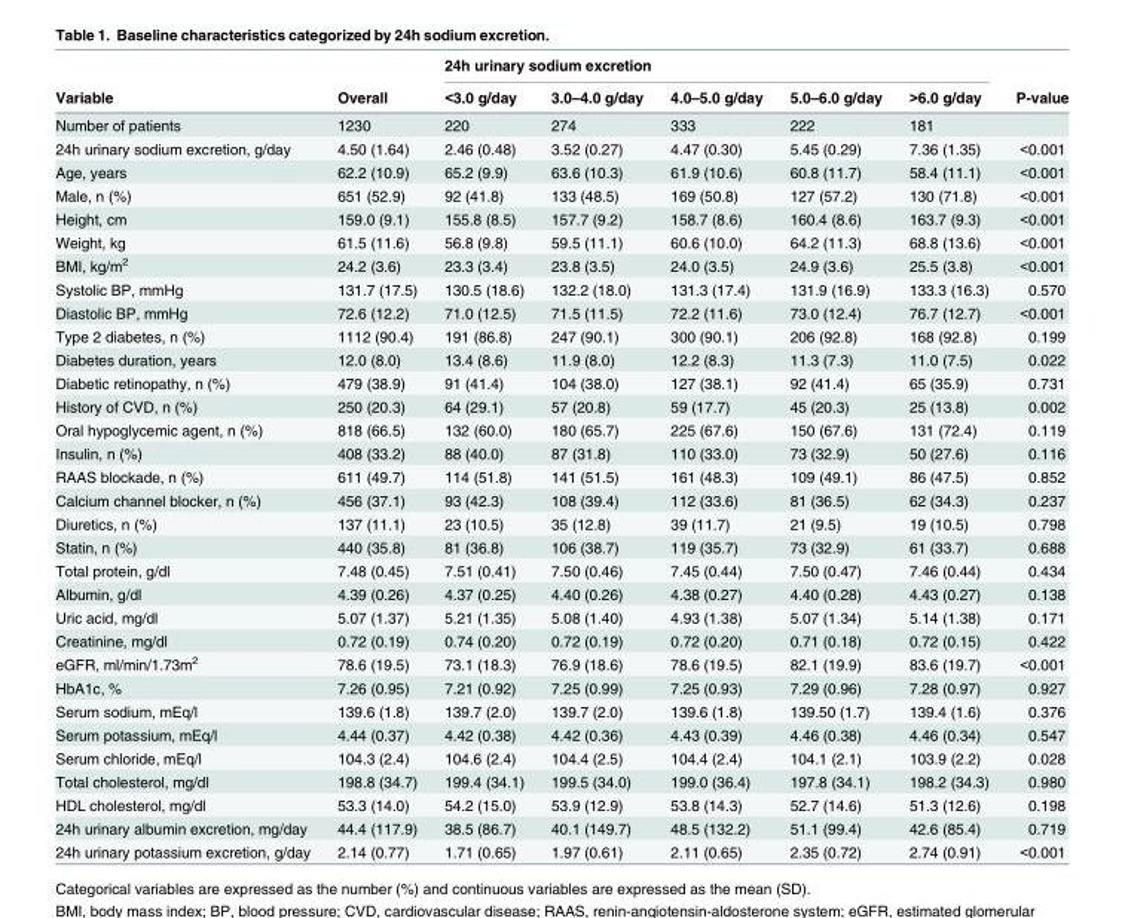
<table><thead><tr><td rowspan="2">Variable</td><td rowspan="2">Overall</td><td colspan="5">24h urinary sodium excretion</td><td rowspan="2">P-value</td></tr><tr><td>&lt;3.0 g/day</td><td>3.0–4.0 g/day</td><td>4.0–5.0 g/day</td><td>5.0–6.0 g/day</td><td>&gt;6.0 g/day</td></tr></thead><tbody><tr><td>Number of patients</td><td>1230</td><td>220</td><td>274</td><td>333</td><td>222</td><td>181</td><td></td></tr><tr><td>24h urinary sodium excretion, g/day</td><td>4.50 (1.64)</td><td>2.46 (0.48)</td><td>3.52 (0.27)</td><td>4.47 (0.30)</td><td>5.45 (0.29)</td><td>7.36 (1.35)</td><td>&lt;0.001</td></tr><tr><td>Age, years</td><td>62.2 (10.9)</td><td>65.2 (9.9)</td><td>63.6 (10.3)</td><td>61.9 (10.6)</td><td>60.8 (11.7)</td><td>58.4 (11.1)</td><td>&lt;0.001</td></tr><tr><td>Male, n (%)</td><td>651 (52.9)</td><td>92 (41.8)</td><td>133 (48.5)</td><td>169 (50.8)</td><td>127 (57.2)</td><td>130 (71.8)</td><td>&lt;0.001</td></tr><tr><td>Height, cm</td><td>159.0 (9.1)</td><td>155.8 (8.5)</td><td>157.7 (9.2)</td><td>158.7 (8.6)</td><td>160.4 (8.6)</td><td>163.7 (9.3)</td><td>&lt;0.001</td></tr><tr><td>Weight, kg</td><td>61.5 (11.6)</td><td>56.8 (9.8)</td><td>59.5 (11.1)</td><td>60.6 (10.0)</td><td>64.2 (11.3)</td><td>68.8 (13.6)</td><td>&lt;0.001</td></tr><tr><td>BMI, kg/m<sup>2</sup></td><td>24.2 (3.6)</td><td>23.3 (3.4)</td><td>23.8 (3.5)</td><td>24.0 (3.5)</td><td>24.9 (3.6)</td><td>25.5 (3.8)</td><td>&lt;0.001</td></tr><tr><td>Systolic BP, mmHg</td><td>131.7 (17.5)</td><td>130.5 (18.6)</td><td>132.2 (18.0)</td><td>131.3 (17.4)</td><td>131.9 (16.9)</td><td>133.3 (16.3)</td><td>0.570</td></tr><tr><td>Diastolic BP, mmHg</td><td>72.6 (12.2)</td><td>71.0 (12.5)</td><td>71.5 (11.5)</td><td>72.2 (11.6)</td><td>73.0 (12.4)</td><td>76.7 (12.7)</td><td>&lt;0.001</td></tr><tr><td>Type 2 diabetes, n (%)</td><td>1112 (90.4)</td><td>191 (86.8)</td><td>247 (90.1)</td><td>300 (90.1)</td><td>206 (92.8)</td><td>168 (92.8)</td><td>0.199</td></tr><tr><td>Diabetes duration, years</td><td>12.0 (8.0)</td><td>13.4 (8.6)</td><td>11.9 (8.0)</td><td>12.2 (8.3)</td><td>11.3 (7.3)</td><td>11.0 (7.5)</td><td>0.022</td></tr><tr><td>Diabetic retinopathy, n (%)</td><td>479 (38.9)</td><td>91 (41.4)</td><td>104 (38.0)</td><td>127 (38.1)</td><td>92 (41.4)</td><td>65 (35.9)</td><td>0.731</td></tr><tr><td>History of CVD, n (%)</td><td>250 (20.3)</td><td>64 (29.1)</td><td>57 (20.8)</td><td>59 (17.7)</td><td>45 (20.3)</td><td>25 (13.8)</td><td>0.002</td></tr><tr><td>Oral hypoglycemic agent, n (%)</td><td>818 (66.5)</td><td>132 (60.0)</td><td>180 (65.7)</td><td>225 (67.6)</td><td>150 (67.6)</td><td>131 (72.4)</td><td>0.119</td></tr><tr><td>Insulin, n (%)</td><td>408 (33.2)</td><td>88 (40.0)</td><td>87 (31.8)</td><td>110 (33.0)</td><td>73 (32.9)</td><td>50 (27.6)</td><td>0.116</td></tr><tr><td>RAAS blockade, n (%)</td><td>611 (49.7)</td><td>114 (51.8)</td><td>141 (51.5)</td><td>161 (48.3)</td><td>109 (49.1)</td><td>86 (47.5)</td><td>0.852</td></tr><tr><td>Calcium channel blocker, n (%)</td><td>456 (37.1)</td><td>93 (42.3)</td><td>108 (39.4)</td><td>112 (33.6)</td><td>81 (36.5)</td><td>62 (34.3)</td><td>0.237</td></tr><tr><td>Diuretics, n (%)</td><td>137 (11.1)</td><td>23 (10.5)</td><td>35 (12.8)</td><td>39 (11.7)</td><td>21 (9.5)</td><td>19 (10.5)</td><td>0.798</td></tr><tr><td>Statin, n (%)</td><td>440 (35.8)</td><td>81 (36.8)</td><td>106 (38.7)</td><td>119 (35.7)</td><td>73 (32.9)</td><td>61 (33.7)</td><td>0.688</td></tr><tr><td>Total protein, g/dl</td><td>7.48 (0.45)</td><td>7.51 (0.41)</td><td>7.50 (0.46)</td><td>7.45 (0.44)</td><td>7.50 (0.47)</td><td>7.46 (0.44)</td><td>0.434</td></tr><tr><td>Albumin, g/dl</td><td>4.39 (0.26)</td><td>4.37 (0.25)</td><td>4.40 (0.26)</td><td>4.38 (0.27)</td><td>4.40 (0.28)</td><td>4.43 (0.27)</td><td>0.138</td></tr><tr><td>Uric acid, mg/dl</td><td>5.07 (1.37)</td><td>5.21 (1.35)</td><td>5.08 (1.40)</td><td>4.93 (1.38)</td><td>5.07 (1.34)</td><td>5.14 (1.38)</td><td>0.171</td></tr><tr><td>Creatinine, mg/dl</td><td>0.72 (0.19)</td><td>0.74 (0.20)</td><td>0.72 (0.19)</td><td>0.72 (0.20)</td><td>0.71 (0.18)</td><td>0.72 (0.15)</td><td>0.422</td></tr><tr><td>eGFR, ml/min/1.73m<sup>2</sup></td><td>78.6 (19.5)</td><td>73.1 (18.3)</td><td>76.9 (18.6)</td><td>78.6 (19.5)</td><td>82.1 (19.9)</td><td>83.6 (19.7)</td><td>&lt;0.001</td></tr><tr><td>HbA1c, %</td><td>7.26 (0.95)</td><td>7.21 (0.92)</td><td>7.25 (0.99)</td><td>7.25 (0.93)</td><td>7.29 (0.96)</td><td>7.28 (0.97)</td><td>0.927</td></tr><tr><td>Serum sodium, mEq/l</td><td>139.6 (1.8)</td><td>139.7 (2.0)</td><td>139.7 (2.0)</td><td>139.6 (1.8)</td><td>139.50 (1.7)</td><td>139.4 (1.6)</td><td>0.376</td></tr><tr><td>Serum potassium, mEq/l</td><td>4.44 (0.37)</td><td>4.42 (0.38)</td><td>4.42 (0.36)</td><td>4.43 (0.39)</td><td>4.46 (0.38)</td><td>4.46 (0.34)</td><td>0.547</td></tr><tr><td>Serum chloride, mEq/l</td><td>104.3 (2.4)</td><td>104.6 (2.4)</td><td>104.4 (2.5)</td><td>104.4 (2.4)</td><td>104.1 (2.1)</td><td>103.9 (2.2)</td><td>0.028</td></tr><tr><td>Total cholesterol, mg/dl</td><td>198.8 (34.7)</td><td>199.4 (34.1)</td><td>199.5 (34.0)</td><td>199.0 (36.4)</td><td>197.8 (34.1)</td><td>198.2 (34.3)</td><td>0.980</td></tr><tr><td>HDL cholesterol, mg/dl</td><td>53.3 (14.0)</td><td>54.2 (15.0)</td><td>53.9 (12.9)</td><td>53.8 (14.3)</td><td>52.7 (14.6)</td><td>51.3 (12.6)</td><td>0.198</td></tr><tr><td>24h urinary albumin excretion, mg/day</td><td>44.4 (117.9)</td><td>38.5 (86.7)</td><td>40.1 (149.7)</td><td>48.5 (132.2)</td><td>51.1 (99.4)</td><td>42.6 (85.4)</td><td>0.719</td></tr><tr><td>24h urinary potassium excretion, g/day</td><td>2.14 (0.77)</td><td>1.71 (0.65)</td><td>1.97 (0.61)</td><td>2.11 (0.65)</td><td>2.35 (0.72)</td><td>2.74 (0.91)</td><td>&lt;0.001</td></tr></tbody></table>